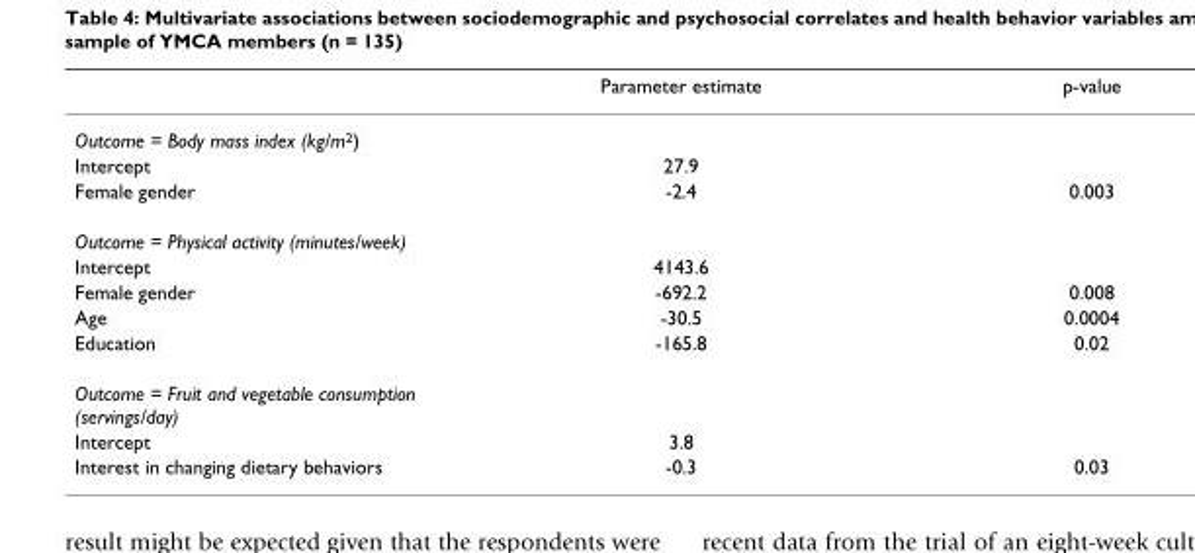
<table><thead><tr><td></td><td>Parameter estimate</td><td>p-value</td></tr></thead><tbody><tr><td colspan="3">Outcome = Body mass index (kg/m<sup>2</sup>)</td></tr><tr><td>Intercept</td><td>27.9</td><td></td></tr><tr><td>Female gender</td><td>-2.4</td><td>0.003</td></tr><tr><td colspan="3">Outcome = Physical activity (minutes/week)</td></tr><tr><td>Intercept</td><td>4143.6</td><td></td></tr><tr><td>Female gender</td><td>-692.2</td><td>0.008</td></tr><tr><td>Age</td><td>-30.5</td><td>0.0004</td></tr><tr><td>Education</td><td>-165.8</td><td>0.02</td></tr><tr><td colspan="3">Outcome = Fruit and vegetable consumption (servings/day)</td></tr><tr><td>Intercept</td><td>3.8</td><td></td></tr><tr><td>Interest in changing dietary behaviors</td><td>-0.3</td><td>0.03</td></tr></tbody></table>